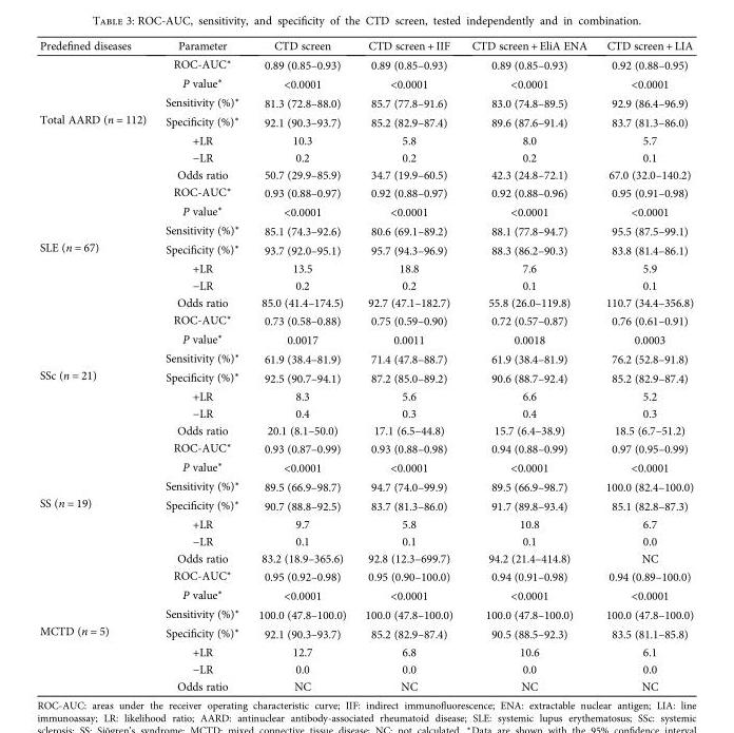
<table><thead><tr><td>Predefined diseases</td><td>Parameter</td><td>CTD screen</td><td>CTD screen + IIF</td><td>CTD screen + EliA ENA</td><td>CTD screen + LIA</td></tr></thead><tbody><tr><td rowspan="7">Total AARD (n = 112)</td><td>ROC-AUC∗</td><td>0.89 (0.85–0.93)</td><td>0.89 (0.85–0.93)</td><td>0.89 (0.85–0.93)</td><td>0.92 (0.88–0.95)</td></tr><tr><td>P value∗</td><td>&lt;0.0001</td><td>&lt;0.0001</td><td>&lt;0.0001</td><td>&lt;0.0001</td></tr><tr><td>Sensitivity (%)∗</td><td>81.3 (72.8–88.0)</td><td>85.7 (77.8–91.6)</td><td>83.0 (74.8–89.5)</td><td>92.9 (86.4–96.9)</td></tr><tr><td>Specificity (%)∗</td><td>92.1 (90.3–93.7)</td><td>85.2 (82.9–87.4)</td><td>89.6 (87.6–91.4)</td><td>83.7 (81.3–86.0)</td></tr><tr><td>+LR</td><td>10.3</td><td>5.8</td><td>8.0</td><td>5.7</td></tr><tr><td>−LR</td><td>0.2</td><td>0.2</td><td>0.2</td><td>0.1</td></tr><tr><td>Odds ratio</td><td>50.7 (29.9–85.9)</td><td>34.7 (19.9–60.5)</td><td>42.3 (24.8–72.1)</td><td>67.0 (32.0–140.2)</td></tr><tr><td rowspan="7">SLE (n = 67)</td><td>ROC-AUC∗</td><td>0.93 (0.88–0.97)</td><td>0.92 (0.88–0.97)</td><td>0.92 (0.88–0.96)</td><td>0.95 (0.91–0.98)</td></tr><tr><td>P value∗</td><td>&lt;0.0001</td><td>&lt;0.0001</td><td>&lt;0.0001</td><td>&lt;0.0001</td></tr><tr><td>Sensitivity (%)∗</td><td>85.1 (74.3–92.6)</td><td>80.6 (69.1–89.2)</td><td>88.1 (77.8–94.7)</td><td>95.5 (87.5–99.1)</td></tr><tr><td>Specificity (%)∗</td><td>93.7 (92.0–95.1)</td><td>95.7 (94.3–96.9)</td><td>88.3 (86.2–90.3)</td><td>83.8 (81.4–86.1)</td></tr><tr><td>+LR</td><td>13.5</td><td>18.8</td><td>7.6</td><td>5.9</td></tr><tr><td>−LR</td><td>0.2</td><td>0.2</td><td>0.1</td><td>0.1</td></tr><tr><td>Odds ratio</td><td>85.0 (41.4–174.5)</td><td>92.7 (47.1–182.7)</td><td>55.8 (26.0–119.8)</td><td>110.7 (34.4–356.8)</td></tr><tr><td rowspan="7">SSc (n = 21)</td><td>ROC-AUC∗</td><td>0.73 (0.58–0.88)</td><td>0.75 (0.59–0.90)</td><td>0.72 (0.57–0.87)</td><td>0.76 (0.61–0.91)</td></tr><tr><td>P value∗</td><td>0.0017</td><td>0.0011</td><td>0.0018</td><td>0.0003</td></tr><tr><td>Sensitivity (%)∗</td><td>61.9 (38.4–81.9)</td><td>71.4 (47.8–88.7)</td><td>61.9 (38.4–81.9)</td><td>76.2 (52.8–91.8)</td></tr><tr><td>Specificity (%)∗</td><td>92.5 (90.7–94.1)</td><td>87.2 (85.0–89.2)</td><td>90.6 (88.7–92.4)</td><td>85.2 (82.9–87.4)</td></tr><tr><td>+LR</td><td>8.3</td><td>5.6</td><td>6.6</td><td>5.2</td></tr><tr><td>−LR</td><td>0.4</td><td>0.3</td><td>0.4</td><td>0.3</td></tr><tr><td>Odds ratio</td><td>20.1 (8.1–50.0)</td><td>17.1 (6.5–44.8)</td><td>15.7 (6.4–38.9)</td><td>18.5 (6.7–51.2)</td></tr><tr><td rowspan="7">SS (n = 19)</td><td>ROC-AUC∗</td><td>0.93 (0.87–0.99)</td><td>0.93 (0.88–0.98)</td><td>0.94 (0.88–0.99)</td><td>0.97 (0.95–0.99)</td></tr><tr><td>P value∗</td><td>&lt;0.0001</td><td>&lt;0.0001</td><td>&lt;0.0001</td><td>&lt;0.0001</td></tr><tr><td>Sensitivity (%)∗</td><td>89.5 (66.9–98.7)</td><td>94.7 (74.0–99.9)</td><td>89.5 (66.9–98.7)</td><td>100.0 (82.4–100.0)</td></tr><tr><td>Specificity (%)∗</td><td>90.7 (88.8–92.5)</td><td>83.7 (81.3–86.0)</td><td>91.7 (89.8–93.4)</td><td>85.1 (82.8–87.3)</td></tr><tr><td>+LR</td><td>9.7</td><td>5.8</td><td>10.8</td><td>6.7</td></tr><tr><td>−LR</td><td>0.1</td><td>0.1</td><td>0.1</td><td>0.0</td></tr><tr><td>Odds ratio</td><td>83.2 (18.9–365.6)</td><td>92.8 (12.3–699.7)</td><td>94.2 (21.4–414.8)</td><td>NC</td></tr><tr><td rowspan="7">MCTD (n = 5)</td><td>ROC-AUC∗</td><td>0.95 (0.92–0.98)</td><td>0.95 (0.90–100.0)</td><td>0.94 (0.91–0.98)</td><td>0.94 (0.89–100.0)</td></tr><tr><td>P value∗</td><td>&lt;0.0001</td><td>&lt;0.0001</td><td>&lt;0.0001</td><td>&lt;0.0001</td></tr><tr><td>Sensitivity (%)∗</td><td>100.0 (47.8–100.0)</td><td>100.0 (47.8–100.0)</td><td>100.0 (47.8–100.0)</td><td>100.0 (47.8–100.0)</td></tr><tr><td>Specificity (%)∗</td><td>92.1 (90.3–93.7)</td><td>85.2 (82.9–87.4)</td><td>90.5 (88.5–92.3)</td><td>83.5 (81.1–85.8)</td></tr><tr><td>+LR</td><td>12.7</td><td>6.8</td><td>10.6</td><td>6.1</td></tr><tr><td>−LR</td><td>0.0</td><td>0.0</td><td>0.0</td><td>0.0</td></tr><tr><td>Odds ratio</td><td>NC</td><td>NC</td><td>NC</td><td>NC</td></tr></tbody></table>